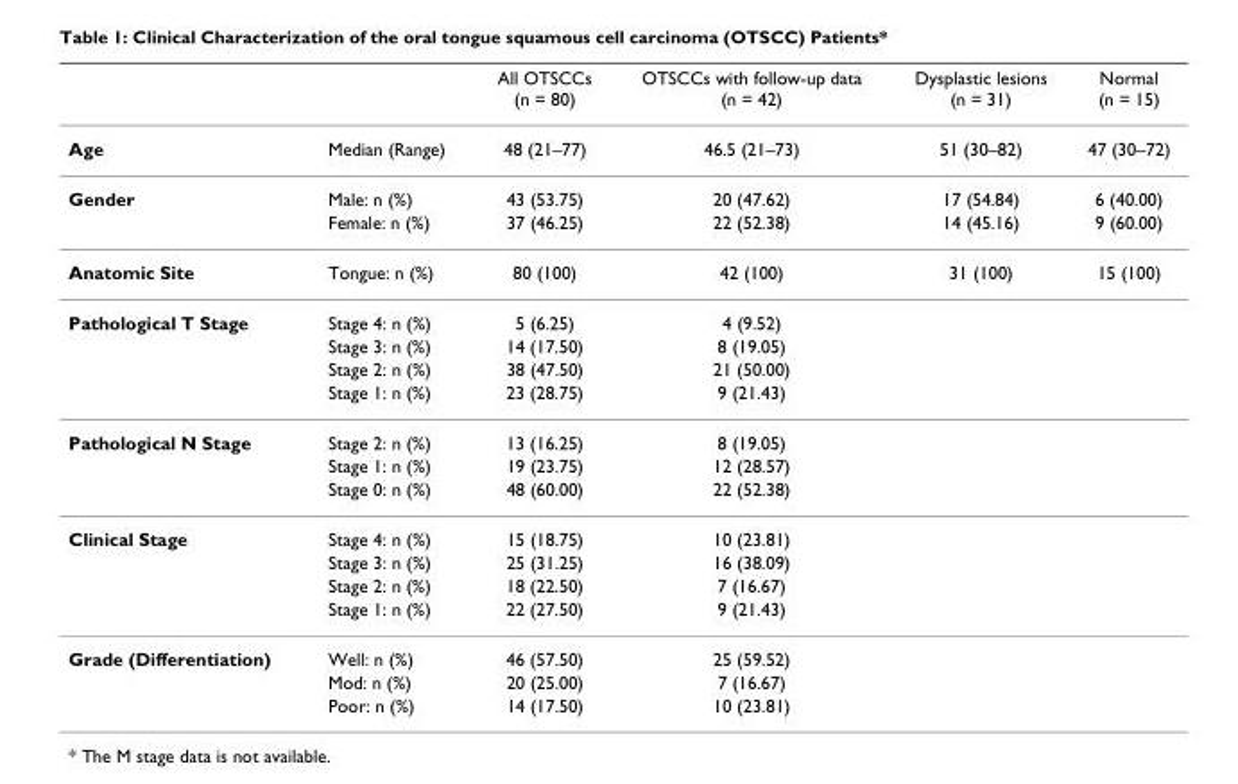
<table><thead><tr><td></td><td></td><td>All OTSCCs (n = 80)</td><td>OTSCCs with follow-up data (n = 42)</td><td>Dysplastic lesions (n = 31)</td><td>Normal (n = 15)</td></tr></thead><tbody><tr><td>Age</td><td>Median (Range)</td><td>48 (21–77)</td><td>46.5 (21–73)</td><td>51 (30–82)</td><td>47 (30–72)</td></tr><tr><td rowspan="2">Gender</td><td>Male: n (%)</td><td>43 (53.75)</td><td>20 (47.62)</td><td>17 (54.84)</td><td>6 (40.00)</td></tr><tr><td>Female: n (%)</td><td>37 (46.25)</td><td>22 (52.38)</td><td>14 (45.16)</td><td>9 (60.00)</td></tr><tr><td>Anatomic Site</td><td>Tongue: n (%)</td><td>80 (100)</td><td>42 (100)</td><td>31 (100)</td><td>15 (100)</td></tr><tr><td rowspan="4">Pathological T Stage</td><td>Stage 4: n (%)</td><td>5 (6.25)</td><td>4 (9.52)</td><td></td><td></td></tr><tr><td>Stage 3: n (%)</td><td>14 (17.50)</td><td>8 (19.05)</td><td></td><td></td></tr><tr><td>Stage 2: n (%)</td><td>38 (47.50)</td><td>21 (50.00)</td><td></td><td></td></tr><tr><td>Stage 1: n (%)</td><td>23 (28.75)</td><td>9 (21.43)</td><td></td><td></td></tr><tr><td rowspan="3">Pathological N Stage</td><td>Stage 2: n (%)</td><td>13 (16.25)</td><td>8 (19.05)</td><td></td><td></td></tr><tr><td>Stage 1: n (%)</td><td>19 (23.75)</td><td>12 (28.57)</td><td></td><td></td></tr><tr><td>Stage 0: n (%)</td><td>48 (60.00)</td><td>22 (52.38)</td><td></td><td></td></tr><tr><td rowspan="4">Clinical Stage</td><td>Stage 4: n (%)</td><td>15 (18.75)</td><td>10 (23.81)</td><td></td><td></td></tr><tr><td>Stage 3: n (%)</td><td>25 (31.25)</td><td>16 (38.09)</td><td></td><td></td></tr><tr><td>Stage 2: n (%)</td><td>18 (22.50)</td><td>7 (16.67)</td><td></td><td></td></tr><tr><td>Stage 1: n (%)</td><td>22 (27.50)</td><td>9 (21.43)</td><td></td><td></td></tr><tr><td rowspan="3">Grade (Differentiation)</td><td>Well: n (%)</td><td>46 (57.50)</td><td>25 (59.52)</td><td></td><td></td></tr><tr><td>Mod: n (%)</td><td>20 (25.00)</td><td>7 (16.67)</td><td></td><td></td></tr><tr><td>Poor: n (%)</td><td>14 (17.50)</td><td>10 (23.81)</td><td></td><td></td></tr></tbody></table>